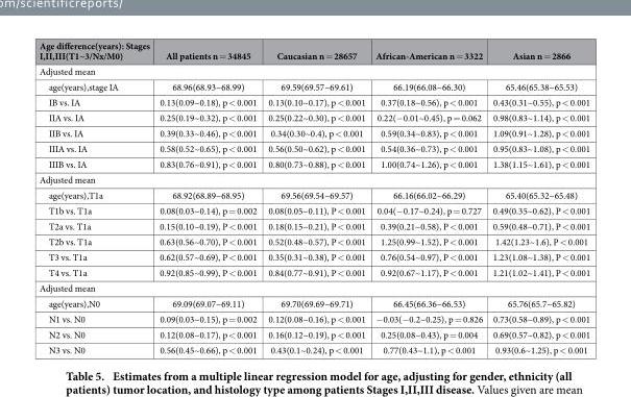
<table><thead><tr><td>Age difference(years): Stages I,II,III(T1~3/Nx/M0)</td><td>All patients n = 34845</td><td>Caucasian n = 28657</td><td>African-American n = 3322</td><td>Asian n = 2866</td></tr></thead><tbody><tr><td colspan="5">Adjusted mean</td></tr><tr><td>age(years),stage IA</td><td>68.96(68.93~68.99)</td><td>69.59(69.57~69.61)</td><td>66.19(66.08~66.30)</td><td>65.46(65.38~65.53)</td></tr><tr><td>IB vs. IA</td><td>0.13(0.09~0.18), p &lt; 0.001</td><td>0.13(0.10~0.17), p &lt; 0.001</td><td>0.37(0.18~0.56), p &lt; 0.001</td><td>0.43(0.31~0.55), p &lt; 0.001</td></tr><tr><td>IIA vs. IA</td><td>0.25(0.19~0.32), p &lt; 0.001</td><td>0.25(0.22~0.30), p &lt; 0.001</td><td>0.22(− 0.01~0.45), p = 0.062</td><td>0.98(0.83~1.14), p &lt; 0.001</td></tr><tr><td>IIB vs. IA</td><td>0.39(0.33~0.46), p &lt; 0.001</td><td>0.34(0.30~0.4), p &lt; 0.001</td><td>0.59(0.34~0.83), p &lt; 0.001</td><td>1.09(0.91~1.28), p &lt; 0.001</td></tr><tr><td>IIIA vs. IA</td><td>0.58(0.52~0.65), p &lt; 0.001</td><td>0.56(0.50~0.62), p &lt; 0.001</td><td>0.54(0.36~0.73), p &lt; 0.001</td><td>0.95(0.83~1.08), p &lt; 0.001</td></tr><tr><td>IIIB vs. IA</td><td>0.83(0.76~0.91), p &lt; 0.001</td><td>0.80(0.73~0.88), p &lt; 0.001</td><td>1.00(0.74~1.26), p &lt; 0.001</td><td>1.38(1.15~1.61), p &lt; 0.001</td></tr><tr><td colspan="5">Adjusted mean</td></tr><tr><td>age(years),T1a</td><td>68.92(68.89~68.95)</td><td>69.56(69.54~69.57)</td><td>66.16(66.02~66.29)</td><td>65.40(65.32~65.48)</td></tr><tr><td>T1b vs. T1a</td><td>0.08(0.03~0.14), p = 0.002</td><td>0.08(0.05~0.11), P &lt; 0.001</td><td>0.04(− 0.17~0.24), p = 0.727</td><td>0.49(0.35~0.62), P &lt; 0.001</td></tr><tr><td>T2a vs. T1a</td><td>0.15(0.10~0.19), P &lt; 0.001</td><td>0.18(0.15~0.21), P &lt; 0.001</td><td>0.39(0.21~0.58), P &lt; 0.001</td><td>0.59(0.48~0.71), P &lt; 0.001</td></tr><tr><td>T2b vs. T1a</td><td>0.63(0.56~0.70), P &lt; 0.001</td><td>0.52(0.48~0.57), P &lt; 0.001</td><td>1.25(0.99~1.52), P &lt; 0.001</td><td>1.42(1.23~1.6), P &lt; 0.001</td></tr><tr><td>T3 vs. T1a</td><td>0.62(0.57~0.69), P &lt; 0.001</td><td>0.35(0.31~0.38), P &lt; 0.001</td><td>0.76(0.54~0.97), P &lt; 0.001</td><td>1.23(1.08~1.38), P &lt; 0.001</td></tr><tr><td>T4 vs. T1a</td><td>0.92(0.85~0.99), P &lt; 0.001</td><td>0.84(0.77~0.91), P &lt; 0.001</td><td>0.92(0.67~1.17), P &lt; 0.001</td><td>1.21(1.02~1.41), P &lt; 0.001</td></tr><tr><td colspan="5">Adjusted mean</td></tr><tr><td>age(years),N0</td><td>69.09(69.07~69.11)</td><td>69.70(69.69~69.71)</td><td>66.45(66.36~66.53)</td><td>65.76(65.7~65.82)</td></tr><tr><td>N1 vs. N0</td><td>0.09(0.03~0.15), p = 0.002</td><td>0.12(0.08~0.16), p &lt; 0.001</td><td>− 0.03(− 0.2~0.25), p = 0.826</td><td>0.73(0.58~0.89), p &lt; 0.001</td></tr><tr><td>N2 vs. N0</td><td>0.12(0.08~0.17), p &lt; 0.001</td><td>0.16(0.12~0.19), p &lt; 0.001</td><td>0.25(0.08~0.43), p = 0.004</td><td>0.69(0.57~0.82), p &lt; 0.001</td></tr><tr><td>N3 vs. N0</td><td>0.56(0.45~0.66), p &lt; 0.001</td><td>0.43(0.1~0.24), p &lt; 0.001</td><td>0.77(0.43~1.1), p &lt; 0.001</td><td>0.93(0.6~1.25), p &lt; 0.001</td></tr></tbody></table>